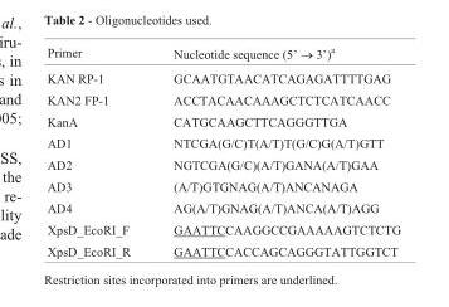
<table><thead><tr><td>Primer</td><td>Nucleotide sequence (5’ → 3’)<sup>a</sup></td></tr></thead><tbody><tr><td>KAN RP-1</td><td>GCAATGTAACATCAGAGATTTTGAG</td></tr><tr><td>KAN2 FP-1</td><td>ACCTACAACAAAGCTCTCATCAACC</td></tr><tr><td>KanA</td><td>CATGCAAGCTTCAGGGTTGA</td></tr><tr><td>AD1</td><td>NTCGA(G/C)T(A/T)T(G/C)G(A/T)GTT</td></tr><tr><td>AD2</td><td>NGTCGA(G/C)(A/T)GANA(A/T)GAA</td></tr><tr><td>AD3</td><td>(A/T)GTGNAG(A/T)ANCANAGA</td></tr><tr><td>AD4</td><td>AG(A/T)GNAG(A/T)ANCA(A/T)AGG</td></tr><tr><td>XpsD_EcoRI_F</td><td>GAATTCCAAGGCCGAAAAAGTCTCTG</td></tr><tr><td>XpsD_EcoRI_R</td><td>GAATTCCACCAGCAGGGTATTGGTCT</td></tr></tbody></table>